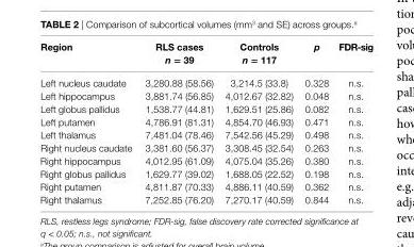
<table><thead><tr><td>region</td><td>rls cases n = 39</td><td>controls n = 117</td><td>p</td><td>FDr-sig</td></tr></thead><tbody><tr><td>Left nucleus caudate</td><td>3,280.88 (58.56)</td><td>3,214.5 (33.8)</td><td>0.328</td><td>n.s.</td></tr><tr><td>Left hippocampus</td><td>3,881.74 (56.85)</td><td>4,012.67 (32.82)</td><td>0.048</td><td>n.s.</td></tr><tr><td>Left globus pallidus</td><td>1,538.77 (44.81)</td><td>1,629.51 (25.86)</td><td>0.082</td><td>n.s.</td></tr><tr><td>Left putamen</td><td>4,786.91 (81.31)</td><td>4,854.70 (46.93)</td><td>0.471</td><td>n.s.</td></tr><tr><td>Left thalamus</td><td>7,481.04 (78.46)</td><td>7,542.56 (45.29)</td><td>0.498</td><td>n.s.</td></tr><tr><td>Right nucleus caudate</td><td>3,381.60 (56.37)</td><td>3,308.45 (32.54)</td><td>0.263</td><td>n.s.</td></tr><tr><td>Right hippocampus</td><td>4,012.95 (61.09)</td><td>4,075.04 (35.26)</td><td>0.380</td><td>n.s.</td></tr><tr><td>Right globus pallidus</td><td>1,629.77 (39.02)</td><td>1,688.05 (22.52)</td><td>0.198</td><td>n.s.</td></tr><tr><td>Right putamen</td><td>4,811.87 (70.33)</td><td>4,886.11 (40.59)</td><td>0.362</td><td>n.s.</td></tr><tr><td>Right thalamus</td><td>7,252.85 (76.20)</td><td>7,270.17 (40.59)</td><td>0.844</td><td>n.s.</td></tr></tbody></table>